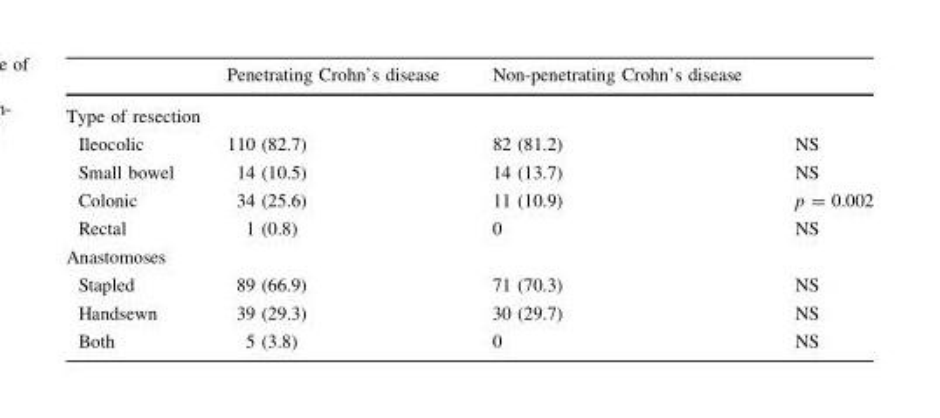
<table><thead><tr><td></td><td>Penetrating Crohn’s disease</td><td>Non-penetrating Crohn’s disease</td><td></td></tr></thead><tbody><tr><td colspan="4">Type of resection</td></tr><tr><td>Ileocolic</td><td>110 (82.7)</td><td>82 (81.2)</td><td>NS</td></tr><tr><td>Small bowel</td><td>14 (10.5)</td><td>14 (13.7)</td><td>NS</td></tr><tr><td>Colonic</td><td>34 (25.6)</td><td>11 (10.9)</td><td>p = 0.002</td></tr><tr><td>Rectal</td><td>1 (0.8)</td><td>0</td><td>NS</td></tr><tr><td colspan="4">Anastomoses</td></tr><tr><td>Stapled</td><td>89 (66.9)</td><td>71 (70.3)</td><td>NS</td></tr><tr><td>Handsewn</td><td>39 (29.3)</td><td>30 (29.7)</td><td>NS</td></tr><tr><td>Both</td><td>5 (3.8)</td><td>0</td><td>NS</td></tr></tbody></table>